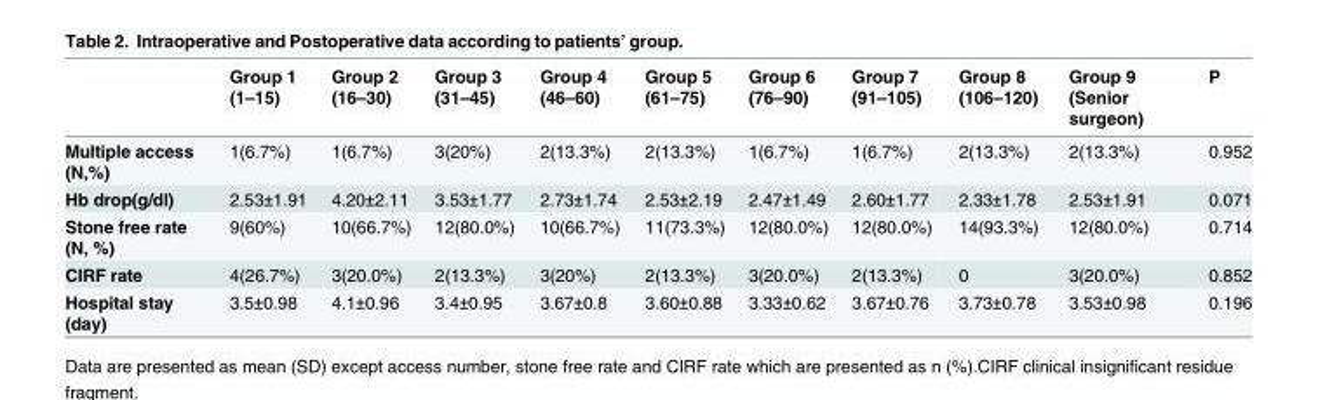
<table><thead><tr><td></td><td>Group 1 (1–15)</td><td>Group 2 (16–30)</td><td>Group 3 (31–45)</td><td>Group 4 (46–60)</td><td>Group 5 (61–75)</td><td>Group 6 (76–90)</td><td>Group 7 (91–105)</td><td>Group 8 (106–120)</td><td>Group 9 (Senior surgeon)</td><td>P</td></tr></thead><tbody><tr><td>Multiple access (N,%)</td><td>1(6.7%)</td><td>1(6.7%)</td><td>3(20%)</td><td>2(13.3%)</td><td>2(13.3%)</td><td>1(6.7%)</td><td>1(6.7%)</td><td>2(13.3%)</td><td>2(13.3%)</td><td>0.952</td></tr><tr><td>Hb drop(g/dl)</td><td>2.53±1.91</td><td>4.20±2.11</td><td>3.53±1.77</td><td>2.73±1.74</td><td>2.53±2.19</td><td>2.47±1.49</td><td>2.60±1.77</td><td>2.33±1.78</td><td>2.53±1.91</td><td>0.071</td></tr><tr><td>Stone free rate (N, %)</td><td>9(60%)</td><td>10(66.7%)</td><td>12(80.0%)</td><td>10(66.7%)</td><td>11(73.3%)</td><td>12(80.0%)</td><td>12(80.0%)</td><td>14(93.3%)</td><td>12(80.0%)</td><td>0.714</td></tr><tr><td>CIRF rate</td><td>4(26.7%)</td><td>3(20.0%)</td><td>2(13.3%)</td><td>3(20%)</td><td>2(13.3%)</td><td>3(20.0%)</td><td>2(13.3%)</td><td>0</td><td>3(20.0%)</td><td>0.852</td></tr><tr><td>Hospital stay (day)</td><td>3.5±0.98</td><td>4.1±0.96</td><td>3.4±0.95</td><td>3.67±0.8</td><td>3.60±0.88</td><td>3.33±0.62</td><td>3.67±0.76</td><td>3.73±0.78</td><td>3.53±0.98</td><td>0.196</td></tr></tbody></table>